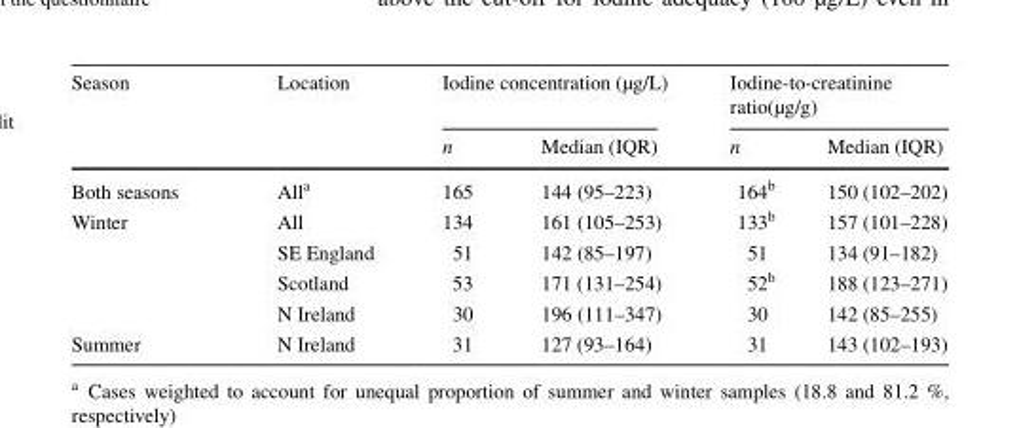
<table><thead><tr><td rowspan="2">Season</td><td rowspan="2">Location</td><td colspan="2">Iodine concentration (µg/L)</td><td colspan="2">Iodine-to-creatinine ratio(µg/g)</td></tr><tr><td>n</td><td>Median (IQR)</td><td>n</td><td>Median (IQR)</td></tr></thead><tbody><tr><td>Both seasons</td><td>All<sup>a</sup></td><td>165</td><td>144 (95–223)</td><td>164<sup>b</sup></td><td>150 (102–202)</td></tr><tr><td rowspan="4">Winter</td><td>All</td><td>134</td><td>161 (105–253)</td><td>133<sup>b</sup></td><td>157 (101–228)</td></tr><tr><td>SE England</td><td>51</td><td>142 (85–197)</td><td>51</td><td>134 (91–182)</td></tr><tr><td>Scotland</td><td>53</td><td>171 (131–254)</td><td>52<sup>b</sup></td><td>188 (123–271)</td></tr><tr><td>N Ireland</td><td>30</td><td>196 (111–347)</td><td>30</td><td>142 (85–255)</td></tr><tr><td>Summer</td><td>N Ireland</td><td>31</td><td>127 (93–164)</td><td>31</td><td>143 (102–193)</td></tr></tbody></table>